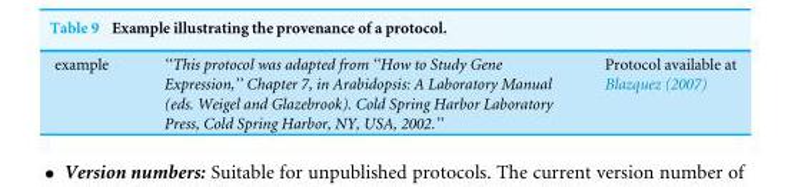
<table><tbody><tr><td>example</td><td>‘‘This protocol was adapted from ‘‘How to Study Gene Expression,’’ Chapter 7, in Arabidopsis: A Laboratory Manual (eds. Weigel and Glazebrook). Cold Spring Harbor Laboratory Press, Cold Spring Harbor, NY, USA, 2002.’’</td><td>Protocol available at Blazquez (2007)</td></tr></tbody></table>